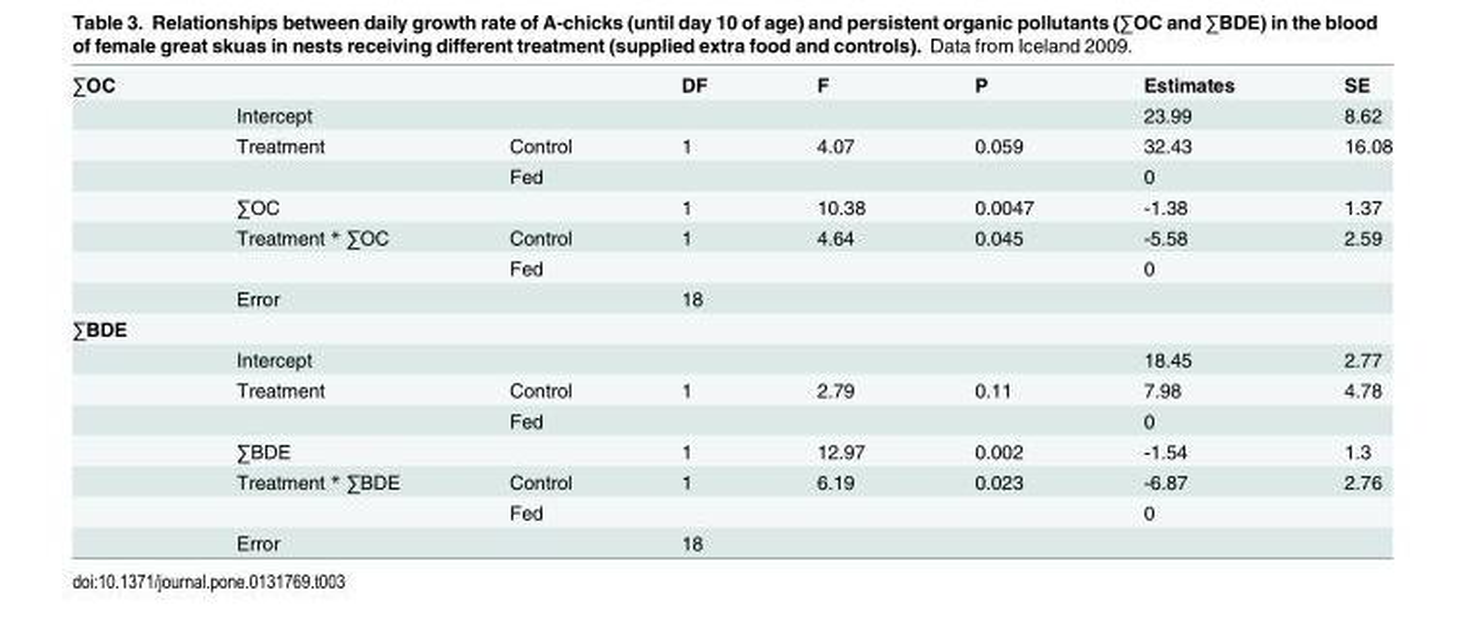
<table><tbody><tr><td rowspan="8">∑OC</td><td></td><td></td><td>DF</td><td>F</td><td>P</td><td>Estimates</td><td>SE</td></tr><tr><td>Intercept</td><td></td><td></td><td></td><td></td><td>23.99</td><td>8.62</td></tr><tr><td>Treatment</td><td>Control</td><td>1</td><td>4.07</td><td>0.059</td><td>32.43</td><td>16.08</td></tr><tr><td></td><td>Fed</td><td></td><td></td><td></td><td>0</td><td></td></tr><tr><td>∑OC</td><td></td><td>1</td><td>10.38</td><td>0.0047</td><td>-1.38</td><td>1.37</td></tr><tr><td>Treatment * ∑OC</td><td>Control</td><td>1</td><td>4.64</td><td>0.045</td><td>-5.58</td><td>2.59</td></tr><tr><td></td><td>Fed</td><td></td><td></td><td></td><td>0</td><td></td></tr><tr><td>Error</td><td></td><td>18</td><td></td><td></td><td></td><td></td></tr><tr><td colspan="8">∑BDE</td></tr><tr><td></td><td>Intercept</td><td></td><td></td><td></td><td></td><td>18.45</td><td>2.77</td></tr><tr><td></td><td>Treatment</td><td>Control</td><td>1</td><td>2.79</td><td>0.11</td><td>7.98</td><td>4.78</td></tr><tr><td></td><td></td><td>Fed</td><td></td><td></td><td></td><td>0</td><td></td></tr><tr><td></td><td>∑BDE</td><td></td><td>1</td><td>12.97</td><td>0.002</td><td>-1.54</td><td>1.3</td></tr><tr><td></td><td>Treatment * ∑BDE</td><td>Control</td><td>1</td><td>6.19</td><td>0.023</td><td>-6.87</td><td>2.76</td></tr><tr><td></td><td></td><td>Fed</td><td></td><td></td><td></td><td>0</td><td></td></tr><tr><td></td><td>Error</td><td></td><td>18</td><td></td><td></td><td></td><td></td></tr></tbody></table>